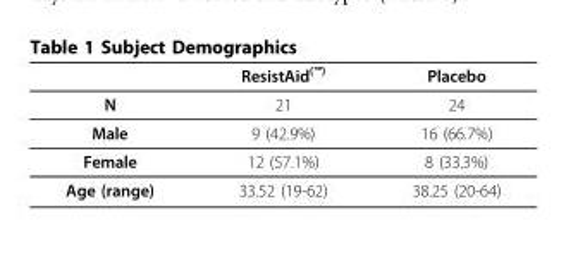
<table><thead><tr><td></td><td>ResistAid<sup>(™)</sup></td><td>Placebo</td></tr></thead><tbody><tr><td>N</td><td>21</td><td>24</td></tr><tr><td>Male</td><td>9 (42.9%)</td><td>16 (66.7%)</td></tr><tr><td>Female</td><td>12 (57.1%)</td><td>8 (33.3%)</td></tr><tr><td>Age (range)</td><td>33.52 (19-62)</td><td>38.25 (20-64)</td></tr></tbody></table>